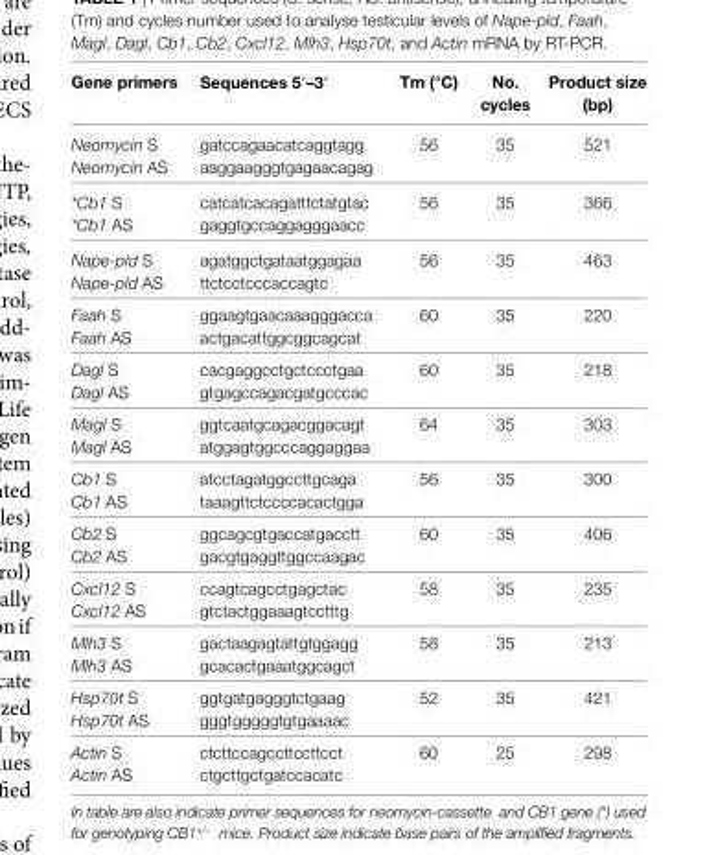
<table><thead><tr><td>gene primers</td><td>sequences 5′–3′</td><td>Tm (°c)</td><td>no. cycles</td><td>Product size (bp)</td></tr></thead><tbody><tr><td>Neomycin S Neomycin AS</td><td>gatccagaacatcaggtagg aaggaagggtgagaacagag</td><td>56</td><td>35</td><td>521</td></tr><tr><td>*Cb1 S *Cb1 AS</td><td>catcatcacagatttctatgtac gaggtgccaggagggaacc</td><td>56</td><td>35</td><td>366</td></tr><tr><td>Nape-pld S Nape-pld AS</td><td>agatggctgataatggagaa ttctcctcccaccagtc</td><td>56</td><td>35</td><td>463</td></tr><tr><td>Faah S Faah AS</td><td>ggaagtgaacaaagggacca actgacattggcggcagcat</td><td>60</td><td>35</td><td>220</td></tr><tr><td>Dagl S Dagl AS</td><td>cacgaggcctgctccctgaa gtgagccagacgatgcccac</td><td>60</td><td>35</td><td>218</td></tr><tr><td>Magl S Magl AS</td><td>ggtcaatgcagacggacagt atggagtggcccaggaggaa</td><td>64</td><td>35</td><td>303</td></tr><tr><td>Cb1 S Cb1 AS</td><td>atcctagatggccttgcaga taaagttctccccacactgga</td><td>56</td><td>35</td><td>300</td></tr><tr><td>Cb2 S Cb2 AS</td><td>ggcagcgtgaccatgacctt gacgtgaggttggccaagac</td><td>60</td><td>35</td><td>406</td></tr><tr><td>Cxcl12 S Cxcl12 AS</td><td>ccagtcagcctgagctac gtctactggaaagtcctttg</td><td>58</td><td>35</td><td>235</td></tr><tr><td>Mlh3 S Mlh3 AS</td><td>gactaagagtattgtggagg gcacactgaaatggcagct</td><td>58</td><td>35</td><td>213</td></tr><tr><td>Hsp70t S Hsp70t AS</td><td>ggtgatgagggtctgaag gggtgggggtgtgaaaac</td><td>52</td><td>35</td><td>421</td></tr><tr><td>Actin S Actin AS</td><td>ctcttccagccttccttcct ctgcttgctgatccacatc</td><td>60</td><td>25</td><td>298</td></tr></tbody></table>